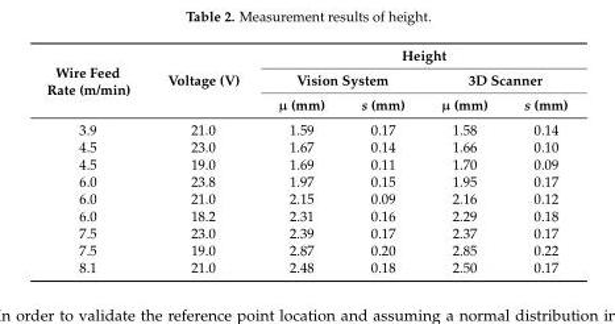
<table><thead><tr><td rowspan="3">Wire Feed Rate (m/min)</td><td rowspan="3">Voltage (V)</td><td colspan="4">Height</td></tr><tr><td colspan="2">Vision System</td><td colspan="2">3D Scanner</td></tr><tr><td>µ (mm)</td><td>s (mm)</td><td>µ (mm)</td><td>s (mm)</td></tr></thead><tbody><tr><td>3.9</td><td>21.0</td><td>1.59</td><td>0.17</td><td>1.58</td><td>0.14</td></tr><tr><td>4.5</td><td>23.0</td><td>1.67</td><td>0.14</td><td>1.66</td><td>0.10</td></tr><tr><td>4.5</td><td>19.0</td><td>1.69</td><td>0.11</td><td>1.70</td><td>0.09</td></tr><tr><td>6.0</td><td>23.8</td><td>1.97</td><td>0.15</td><td>1.95</td><td>0.17</td></tr><tr><td>6.0</td><td>21.0</td><td>2.15</td><td>0.09</td><td>2.16</td><td>0.12</td></tr><tr><td>6.0</td><td>18.2</td><td>2.31</td><td>0.16</td><td>2.29</td><td>0.18</td></tr><tr><td>7.5</td><td>23.0</td><td>2.39</td><td>0.17</td><td>2.37</td><td>0.17</td></tr><tr><td>7.5</td><td>19.0</td><td>2.87</td><td>0.20</td><td>2.85</td><td>0.22</td></tr><tr><td>8.1</td><td>21.0</td><td>2.48</td><td>0.18</td><td>2.50</td><td>0.17</td></tr></tbody></table>